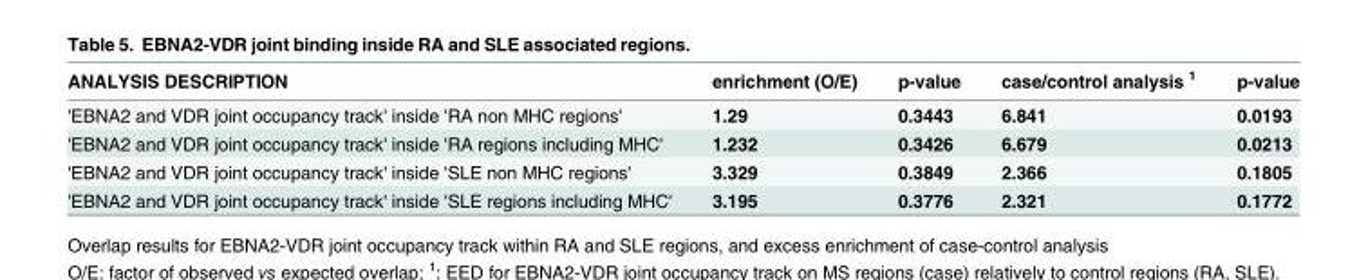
<table><thead><tr><td>ANALYSIS DESCRIPTION</td><td>enrichment (O/E)</td><td>p-value</td><td>case/control analysis <sup>1</sup></td><td>p-value</td></tr></thead><tbody><tr><td>&#x27;EBNA2 and VDR joint occupancy track&#x27; inside &#x27;RA non MHC regions&#x27;</td><td>1.29</td><td>0.3443</td><td>6.841</td><td>0.0193</td></tr><tr><td>&#x27;EBNA2 and VDR joint occupancy track&#x27; inside &#x27;RA regions including MHC&#x27;</td><td>1.232</td><td>0.3426</td><td>6.679</td><td>0.0213</td></tr><tr><td>&#x27;EBNA2 and VDR joint occupancy track&#x27; inside &#x27;SLE non MHC regions&#x27;</td><td>3.329</td><td>0.3849</td><td>2.366</td><td>0.1805</td></tr><tr><td>&#x27;EBNA2 and VDR joint occupancy track&#x27; inside &#x27;SLE regions including MHC&#x27;</td><td>3.195</td><td>0.3776</td><td>2.321</td><td>0.1772</td></tr></tbody></table>